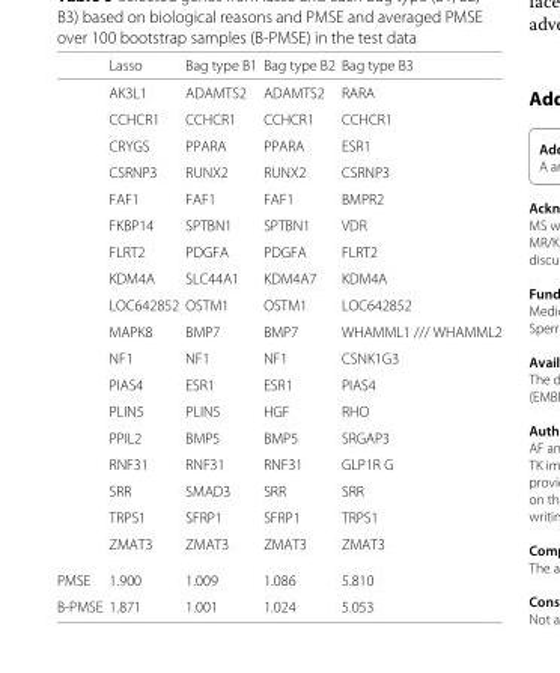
<table><thead><tr><td></td><td>Lasso</td><td>Bag type B1</td><td>Bag type B2</td><td>Bag type B3</td></tr></thead><tbody><tr><td></td><td>AK3L1</td><td>ADAMTS2</td><td>ADAMTS2</td><td>RARA</td></tr><tr><td></td><td>CCHCR1</td><td>CCHCR1</td><td>CCHCR1</td><td>CCHCR1</td></tr><tr><td></td><td>CRYGS</td><td>PPARA</td><td>PPARA</td><td>ESR1</td></tr><tr><td></td><td>CSRNP3</td><td>RUNX2</td><td>RUNX2</td><td>CSRNP3</td></tr><tr><td></td><td>FAF1</td><td>FAF1</td><td>FAF1</td><td>BMPR2</td></tr><tr><td></td><td>FKBP14</td><td>SPTBN1</td><td>SPTBN1</td><td>VDR</td></tr><tr><td></td><td>FLRT2</td><td>PDGFA</td><td>PDGFA</td><td>FLRT2</td></tr><tr><td></td><td>KDM4A</td><td>SLC44A1</td><td>KDM4A7</td><td>KDM4A</td></tr><tr><td></td><td>LOC642852</td><td>OSTM1</td><td>OSTM1</td><td>LOC642852</td></tr><tr><td></td><td>MAPK8</td><td>BMP7</td><td>BMP7</td><td>WHAMML1 /// WHAMML2</td></tr><tr><td></td><td>NF1</td><td>NF1</td><td>NF1</td><td>CSNK1G3</td></tr><tr><td></td><td>PIAS4</td><td>ESR1</td><td>ESR1</td><td>PIAS4</td></tr><tr><td></td><td>PLIN5</td><td>PLIN5</td><td>HGF</td><td>RHO</td></tr><tr><td></td><td>PPIL2</td><td>BMP5</td><td>BMP5</td><td>SRGAP3</td></tr><tr><td></td><td>RNF31</td><td>RNF31</td><td>RNF31</td><td>GLP1R G</td></tr><tr><td></td><td>SRR</td><td>SMAD3</td><td>SRR</td><td>SRR</td></tr><tr><td></td><td>TRPS1</td><td>SFRP1</td><td>SFRP1</td><td>TRPS1</td></tr><tr><td></td><td>ZMAT3</td><td>ZMAT3</td><td>ZMAT3</td><td>ZMAT3</td></tr><tr><td>PMSE</td><td>1.900</td><td>1.009</td><td>1.086</td><td>5.810</td></tr><tr><td>B-PMSE</td><td>1.871</td><td>1.001</td><td>1.024</td><td>5.053</td></tr></tbody></table>